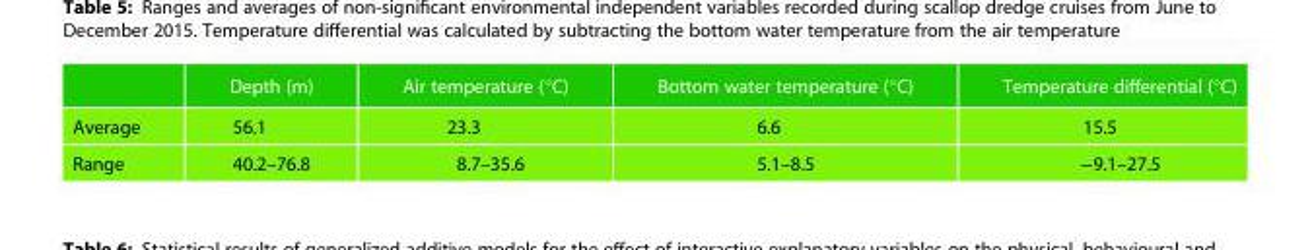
<table><thead><tr><td></td><td>Depth (m)</td><td>Air temperature (°C)</td><td>Bottom water temperature (°C)</td><td>Temperature differential (°C)</td></tr></thead><tbody><tr><td>Average</td><td>56.1</td><td>23.3</td><td>6.6</td><td>15.5</td></tr><tr><td>Range</td><td>40.2–76.8</td><td>8.7–35.6</td><td>5.1–8.5</td><td>−9.1–27.5</td></tr></tbody></table>